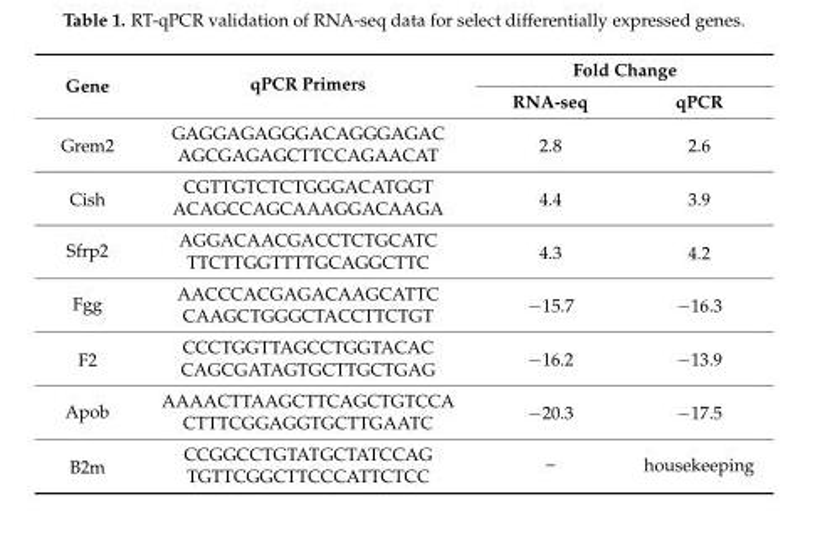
<table><thead><tr><td rowspan="2">Gene</td><td rowspan="2">qPCR Primers</td><td colspan="2">Fold Change</td></tr><tr><td>RNA-seq</td><td>qPCR</td></tr></thead><tbody><tr><td rowspan="2">Grem2</td><td>GAGGAGAGGGACAGGGAGAC</td><td rowspan="2">2.8</td><td rowspan="2">2.6</td></tr><tr><td>AGCGAGAGCTTCCAGAACAT</td></tr><tr><td rowspan="2">Cish</td><td>CGTTGTCTCTGGGACATGGT</td><td rowspan="2">4.4</td><td rowspan="2">3.9</td></tr><tr><td>ACAGCCAGCAAAGGACAAGA</td></tr><tr><td rowspan="2">Sfrp2</td><td>AGGACAACGACCTCTGCATC</td><td rowspan="2">4.3</td><td rowspan="2">4.2</td></tr><tr><td>TTCTTGGTTTTGCAGGCTTC</td></tr><tr><td rowspan="2">Fgg</td><td>AACCCACGAGACAAGCATTC</td><td rowspan="2">−15.7</td><td rowspan="2">−16.3</td></tr><tr><td>CAAGCTGGGCTACCTTCTGT</td></tr><tr><td rowspan="2">F2</td><td>CCCTGGTTAGCCTGGTACAC</td><td rowspan="2">−16.2</td><td rowspan="2">−13.9</td></tr><tr><td>CAGCGATAGTGCTTGCTGAG</td></tr><tr><td rowspan="2">Apob</td><td>AAAACTTAAGCTTCAGCTGTCCA</td><td rowspan="2">−20.3</td><td rowspan="2">−17.5</td></tr><tr><td>CTTTCGGAGGTGCTTGAATC</td></tr><tr><td rowspan="2">B2m</td><td>CCGGCCTGTATGCTATCCAG</td><td rowspan="2">–</td><td rowspan="2">housekeeping</td></tr><tr><td>TGTTCGGCTTCCCATTCTCC</td></tr></tbody></table>